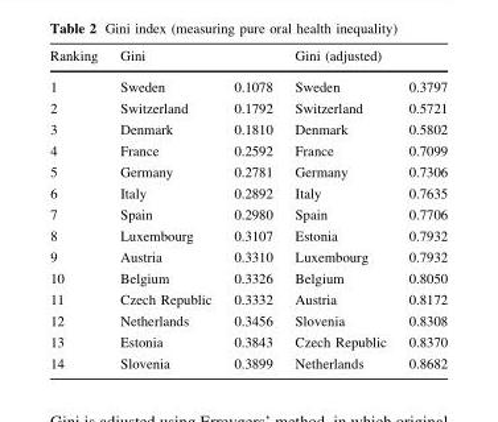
<table><thead><tr><td rowspan="2">Ranking 1</td><td colspan="2">Gini</td><td colspan="2">Gini (adjusted)</td></tr><tr><td>Sweden</td><td>0.1078</td><td>Sweden</td><td>0.3797</td></tr></thead><tbody><tr><td>2</td><td>Switzerland</td><td>0.1792</td><td>Switzerland</td><td>0.5721</td></tr><tr><td>3</td><td>Denmark</td><td>0.1810</td><td>Denmark</td><td>0.5802</td></tr><tr><td>4</td><td>France</td><td>0.2592</td><td>France</td><td>0.7099</td></tr><tr><td>5</td><td>Germany</td><td>0.2781</td><td>Germany</td><td>0.7306</td></tr><tr><td>6</td><td>Italy</td><td>0.2892</td><td>Italy</td><td>0.7635</td></tr><tr><td>7</td><td>Spain</td><td>0.2980</td><td>Spain</td><td>0.7706</td></tr><tr><td>8</td><td>Luxembourg</td><td>0.3107</td><td>Estonia</td><td>0.7932</td></tr><tr><td>9</td><td>Austria</td><td>0.3310</td><td>Luxembourg</td><td>0.7932</td></tr><tr><td>10</td><td>Belgium</td><td>0.3326</td><td>Belgium</td><td>0.8050</td></tr><tr><td>11</td><td>Czech Republic</td><td>0.3332</td><td>Austria</td><td>0.8172</td></tr><tr><td>12</td><td>Netherlands</td><td>0.3456</td><td>Slovenia</td><td>0.8308</td></tr><tr><td>13</td><td>Estonia</td><td>0.3843</td><td>Czech Republic</td><td>0.8370</td></tr><tr><td>14</td><td>Slovenia</td><td>0.3899</td><td>Netherlands</td><td>0.8682</td></tr></tbody></table>